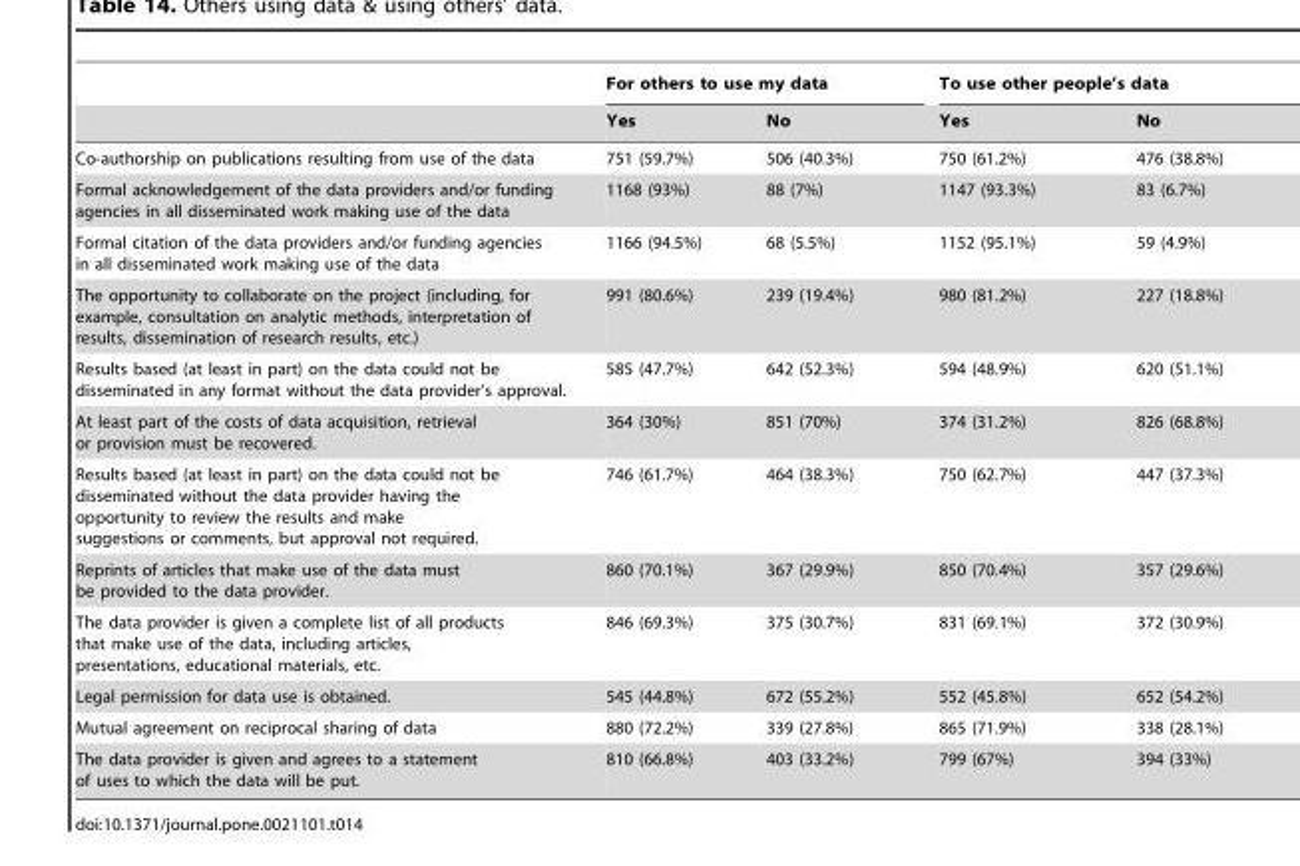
<table><thead><tr><td rowspan="2"></td><td colspan="2">For others to use my data</td><td colspan="2">To use other people’s data</td></tr><tr><td>Yes</td><td>No</td><td>Yes</td><td>No</td></tr></thead><tbody><tr><td>Co-authorship on publications resulting from use of the data</td><td>751 (59.7%)</td><td>506 (40.3%)</td><td>750 (61.2%)</td><td>476 (38.8%)</td></tr><tr><td>Formal acknowledgement of the data providers and/or funding agencies in all disseminated work making use of the data</td><td>1168 (93%)</td><td>88 (7%)</td><td>1147 (93.3%)</td><td>83 (6.7%)</td></tr><tr><td>Formal citation of the data providers and/or funding agencies in all disseminated work making use of the data</td><td>1166 (94.5%)</td><td>68 (5.5%)</td><td>1152 (95.1%)</td><td>59 (4.9%)</td></tr><tr><td>The opportunity to collaborate on the project (including, for example, consultation on analytic methods, interpretation of results, dissemination of research results, etc.)</td><td>991 (80.6%)</td><td>239 (19.4%)</td><td>980 (81.2%)</td><td>227 (18.8%)</td></tr><tr><td>Results based (at least in part) on the data could not be disseminated in any format without the data provider’s approval.</td><td>585 (47.7%)</td><td>642 (52.3%)</td><td>594 (48.9%)</td><td>620 (51.1%)</td></tr><tr><td>At least part of the costs of data acquisition, retrieval or provision must be recovered.</td><td>364 (30%)</td><td>851 (70%)</td><td>374 (31.2%)</td><td>826 (68.8%)</td></tr><tr><td>Results based (at least in part) on the data could not be disseminated without the data provider having the opportunity to review the results and make suggestions or comments, but approval not required.</td><td>746 (61.7%)</td><td>464 (38.3%)</td><td>750 (62.7%)</td><td>447 (37.3%)</td></tr><tr><td>Reprints of articles that make use of the data must be provided to the data provider.</td><td>860 (70.1%)</td><td>367 (29.9%)</td><td>850 (70.4%)</td><td>357 (29.6%)</td></tr><tr><td>The data provider is given a complete list of all products that make use of the data, including articles, presentations, educational materials, etc.</td><td>846 (69.3%)</td><td>375 (30.7%)</td><td>831 (69.1%)</td><td>372 (30.9%)</td></tr><tr><td>Legal permission for data use is obtained.</td><td>545 (44.8%)</td><td>672 (55.2%)</td><td>552 (45.8%)</td><td>652 (54.2%)</td></tr><tr><td>Mutual agreement on reciprocal sharing of data</td><td>880 (72.2%)</td><td>339 (27.8%)</td><td>865 (71.9%)</td><td>338 (28.1%)</td></tr><tr><td>The data provider is given and agrees to a statement of uses to which the data will be put.</td><td>810 (66.8%)</td><td>403 (33.2%)</td><td>799 (67%)</td><td>394 (33%)</td></tr></tbody></table>